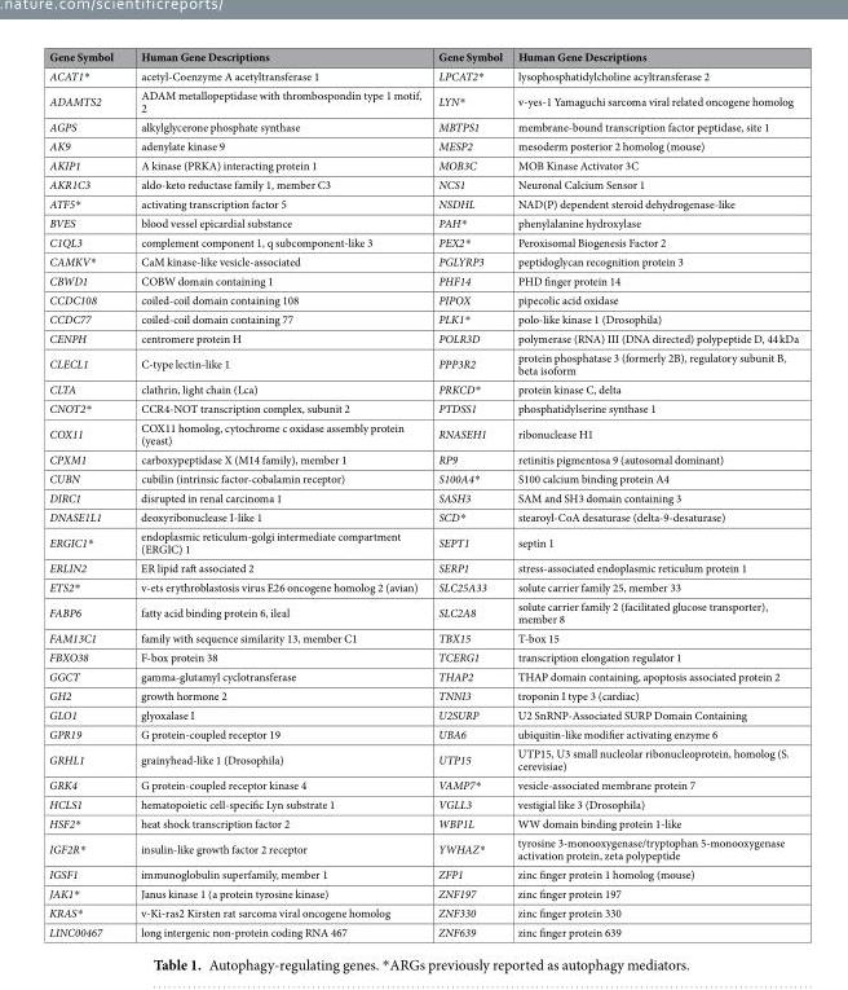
<table><thead><tr><td>Gene Symbol</td><td>Human Gene Descriptions</td><td>Gene Symbol</td><td>Human Gene Descriptions</td></tr></thead><tbody><tr><td>ACAT1*</td><td>acetyl-Coenzyme A acetyltransferase 1</td><td>LPCAT2*</td><td>lysophosphatidylcholine acyltransferase 2</td></tr><tr><td>ADAMTS2</td><td>ADAM metallopeptidase with thrombospondin type 1 motif, 2</td><td>LYN*</td><td>v-yes-1 Yamaguchi sarcoma viral related oncogene homolog</td></tr><tr><td>AGPS</td><td>alkylglycerone phosphate synthase</td><td>MBTPS1</td><td>membrane-bound transcription factor peptidase, site 1</td></tr><tr><td>AK9</td><td>adenylate kinase 9</td><td>MESP2</td><td>mesoderm posterior 2 homolog (mouse)</td></tr><tr><td>AKIP1</td><td>A kinase (PRKA) interacting protein 1</td><td>MOB3C</td><td>MOB Kinase Activator 3C</td></tr><tr><td>AKR1C3</td><td>aldo-keto reductase family 1, member C3</td><td>NCS1</td><td>Neuronal Calcium Sensor 1</td></tr><tr><td>ATF5*</td><td>activating transcription factor 5</td><td>NSDHL</td><td>NAD(P) dependent steroid dehydrogenase-like</td></tr><tr><td>BVES</td><td>blood vessel epicardial substance</td><td>PAH*</td><td>phenylalanine hydroxylase</td></tr><tr><td>C1QL3</td><td>complement component 1, q subcomponent-like 3</td><td>PEX2*</td><td>Peroxisomal Biogenesis Factor 2</td></tr><tr><td>CAMKV*</td><td>CaM kinase-like vesicle-associated</td><td>PGLYRP3</td><td>peptidoglycan recognition protein 3</td></tr><tr><td>CBWD1</td><td>COBW domain containing 1</td><td>PHF14</td><td>PHD finger protein 14</td></tr><tr><td>CCDC108</td><td>coiled-coil domain containing 108</td><td>PIPOX</td><td>pipecolic acid oxidase</td></tr><tr><td>CCDC77</td><td>coiled-coil domain containing 77</td><td>PLK1*</td><td>polo-like kinase 1 (Drosophila)</td></tr><tr><td>CENPH</td><td>centromere protein H</td><td>POLR3D</td><td>polymerase (RNA) III (DNA directed) polypeptide D, 44 kDa</td></tr><tr><td>CLECL1</td><td>C-type lectin-like 1</td><td>PPP3R2</td><td>protein phosphatase 3 (formerly 2B), regulatory subunit B, beta isoform</td></tr><tr><td>CLTA</td><td>clathrin, light chain (Lca)</td><td>PRKCD*</td><td>protein kinase C, delta</td></tr><tr><td>CNOT2*</td><td>CCR4-NOT transcription complex, subunit 2</td><td>PTDSS1</td><td>phosphatidylserine synthase 1</td></tr><tr><td>COX11</td><td>COX11 homolog, cytochrome c oxidase assembly protein (yeast)</td><td>RNASEH1</td><td>ribonuclease H1</td></tr><tr><td>CPXM1</td><td>carboxypeptidase X (M14 family), member 1</td><td>RP9</td><td>retinitis pigmentosa 9 (autosomal dominant)</td></tr><tr><td>CUBN</td><td>cubilin (intrinsic factor-cobalamin receptor)</td><td>S100A4*</td><td>S100 calcium binding protein A4</td></tr><tr><td>DIRC1</td><td>disrupted in renal carcinoma 1</td><td>SASH3</td><td>SAM and SH3 domain containing 3</td></tr><tr><td>DNASE1L1</td><td>deoxyribonuclease I-like 1</td><td>SCD*</td><td>stearoyl-CoA desaturase (delta-9-desaturase)</td></tr><tr><td>ERGIC1*</td><td>endoplasmic reticulum-golgi intermediate compartment (ERGIC) 1</td><td>SEPT1</td><td>septin 1</td></tr><tr><td>ERLIN2</td><td>ER lipid raft associated 2</td><td>SERP1</td><td>stress-associated endoplasmic reticulum protein 1</td></tr><tr><td>ETS2*</td><td>v-ets erythroblastosis virus E26 oncogene homolog 2 (avian)</td><td>SLC25A33</td><td>solute carrier family 25, member 33</td></tr><tr><td>FABP6</td><td>fatty acid binding protein 6, ileal</td><td>SLC2A8</td><td>solute carrier family 2 (facilitated glucose transporter), member 8</td></tr><tr><td>FAM13C1</td><td>family with sequence similarity 13, member C1</td><td>TBX15</td><td>T-box 15</td></tr><tr><td>FBXO38</td><td>F-box protein 38</td><td>TCERG1</td><td>transcription elongation regulator 1</td></tr><tr><td>GGCT</td><td>gamma-glutamyl cyclotransferase</td><td>THAP2</td><td>THAP domain containing, apoptosis associated protein 2</td></tr><tr><td>GH2</td><td>growth hormone 2</td><td>TNNI3</td><td>troponin I type 3 (cardiac)</td></tr><tr><td>GLO1</td><td>glyoxalase I</td><td>U2SURP</td><td>U2 SnRNP-Associated SURP Domain Containing</td></tr><tr><td>GPR19</td><td>G protein-coupled receptor 19</td><td>UBA6</td><td>ubiquitin-like modifier activating enzyme 6</td></tr><tr><td>GRHL1</td><td>grainyhead-like 1 (Drosophila)</td><td>UTP15</td><td>UTP15, U3 small nucleolar ribonucleoprotein, homolog (S. cerevisiae)</td></tr><tr><td>GRK4</td><td>G protein-coupled receptor kinase 4</td><td>VAMP7*</td><td>vesicle-associated membrane protein 7</td></tr><tr><td>HCLS1</td><td>hematopoietic cell-specific Lyn substrate 1</td><td>VGLL3</td><td>vestigial like 3 (Drosophila)</td></tr><tr><td>HSF2*</td><td>heat shock transcription factor 2</td><td>WBP1L</td><td>WW domain binding protein 1-like</td></tr><tr><td>IGF2R*</td><td>insulin-like growth factor 2 receptor</td><td>YWHAZ*</td><td>tyrosine 3-monooxygenase/tryptophan 5-monooxygenase activation protein, zeta polypeptide</td></tr><tr><td>IGSF1</td><td>immunoglobulin superfamily, member 1</td><td>ZFP1</td><td>zinc finger protein 1 homolog (mouse)</td></tr><tr><td>JAK1*</td><td>Janus kinase 1 (a protein tyrosine kinase)</td><td>ZNF197</td><td>zinc finger protein 197</td></tr><tr><td>KRAS*</td><td>v-Ki-ras2 Kirsten rat sarcoma viral oncogene homolog</td><td>ZNF330</td><td>zinc finger protein 330</td></tr><tr><td>LINC00467</td><td>long intergenic non-protein coding RNA 467</td><td>ZNF639</td><td>zinc finger protein 639</td></tr></tbody></table>